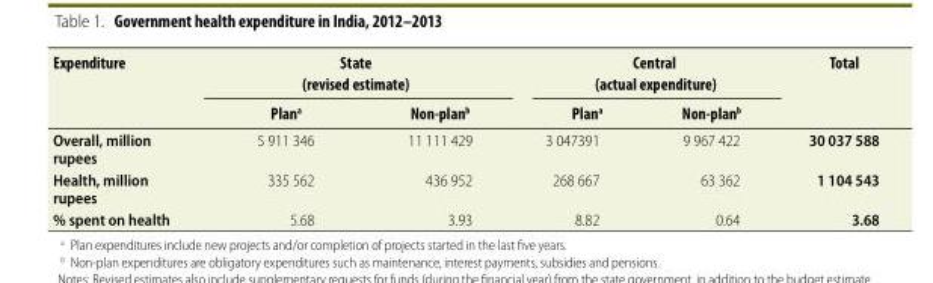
<table><thead><tr><td rowspan="2">Expenditure</td><td colspan="2">State (revised estimate)</td><td colspan="2">Central (actual expenditure)</td><td rowspan="2">Total</td></tr><tr><td>Plan<sup>a</sup></td><td>Non-plan<sup>b</sup></td><td>Plan<sup>a</sup></td><td>Non-plan<sup>b</sup></td></tr></thead><tbody><tr><td>Overall, million rupees</td><td>5 911 346</td><td>11 111 429</td><td>3 047391</td><td>9 967 422</td><td>30 037 588</td></tr><tr><td>Health, million rupees</td><td>335 562</td><td>436 952</td><td>268 667</td><td>63 362</td><td>1 104 543</td></tr><tr><td>% spent on health</td><td>5.68</td><td>3.93</td><td>8.82</td><td>0.64</td><td>3.68</td></tr></tbody></table>